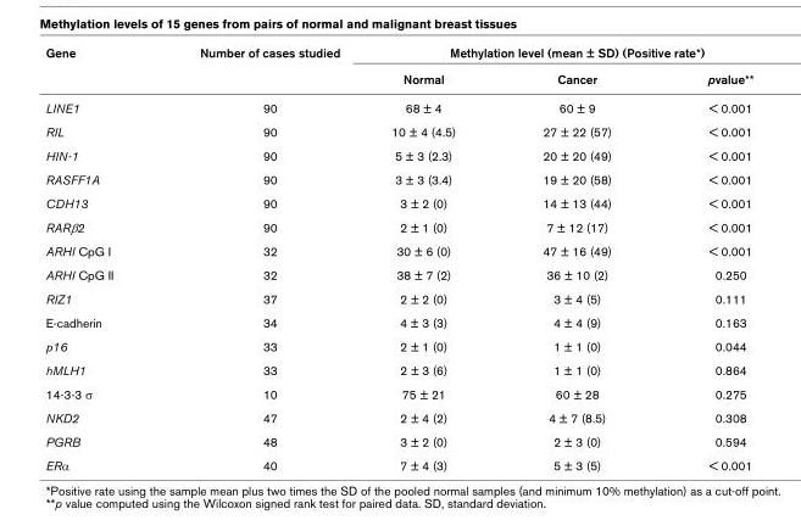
<table><thead><tr><td rowspan="2">Gene</td><td rowspan="2">Number of cases studied</td><td colspan="3">Methylation level (mean ± SD) (Positive rate*)</td></tr><tr><td>Normal</td><td>Cancer</td><td>pvalue**</td></tr></thead><tbody><tr><td>LINE1</td><td>90</td><td>68 ± 4</td><td>60 ± 9</td><td>&lt; 0.001</td></tr><tr><td>RIL</td><td>90</td><td>10 ± 4 (4.5)</td><td>27 ± 22 (57)</td><td>&lt; 0.001</td></tr><tr><td>HIN-1</td><td>90</td><td>5 ± 3 (2.3)</td><td>20 ± 20 (49)</td><td>&lt; 0.001</td></tr><tr><td>RASFF1A</td><td>90</td><td>3 ± 3 (3.4)</td><td>19 ± 20 (58)</td><td>&lt; 0.001</td></tr><tr><td>CDH13</td><td>90</td><td>3 ± 2 (0)</td><td>14 ± 13 (44)</td><td>&lt; 0.001</td></tr><tr><td>RARβ2</td><td>90</td><td>2 ± 1 (0)</td><td>7 ± 12 (17)</td><td>&lt; 0.001</td></tr><tr><td>ARHI CpG I</td><td>32</td><td>30 ± 6 (0)</td><td>47 ± 16 (49)</td><td>&lt; 0.001</td></tr><tr><td>ARHI CpG II</td><td>32</td><td>38 ± 7 (2)</td><td>36 ± 10 (2)</td><td>0.250</td></tr><tr><td>RIZ1</td><td>37</td><td>2 ± 2 (0)</td><td>3 ± 4 (5)</td><td>0.111</td></tr><tr><td>E-cadherin</td><td>34</td><td>4 ± 3 (3)</td><td>4 ± 4 (9)</td><td>0.163</td></tr><tr><td>p16</td><td>33</td><td>2 ± 1 (0)</td><td>1 ± 1 (0)</td><td>0.044</td></tr><tr><td>hMLH1</td><td>33</td><td>2 ± 3 (6)</td><td>1 ± 1 (0)</td><td>0.864</td></tr><tr><td>14-3-3 σ</td><td>10</td><td>75 ± 21</td><td>60 ± 28</td><td>0.275</td></tr><tr><td>NKD2</td><td>47</td><td>2 ± 4 (2)</td><td>4 ± 7 (8.5)</td><td>0.308</td></tr><tr><td>PGRB</td><td>48</td><td>3 ± 2 (0)</td><td>2 ± 3 (0)</td><td>0.594</td></tr><tr><td>ERα</td><td>40</td><td>7 ± 4 (3)</td><td>5 ± 3 (5)</td><td>&lt; 0.001</td></tr></tbody></table>